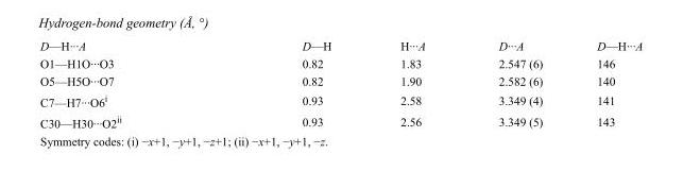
<table><tbody><tr><td>D—H···A</td><td>D—H</td><td>H···A</td><td>D···A</td><td>D—H···A</td></tr><tr><td>O1—H1O···O3</td><td>0.82</td><td>1.83</td><td>2.547 (6)</td><td>146</td></tr><tr><td>O5—H5O···O7</td><td>0.82</td><td>1.90</td><td>2.582 (6)</td><td>140</td></tr><tr><td>C7—H7···O6<sup>i</sup></td><td>0.93</td><td>2.58</td><td>3.349 (4)</td><td>141</td></tr><tr><td>C30—H30···O2<sup>ii</sup></td><td>0.93</td><td>2.56</td><td>3.349 (5)</td><td>143</td></tr></tbody></table>